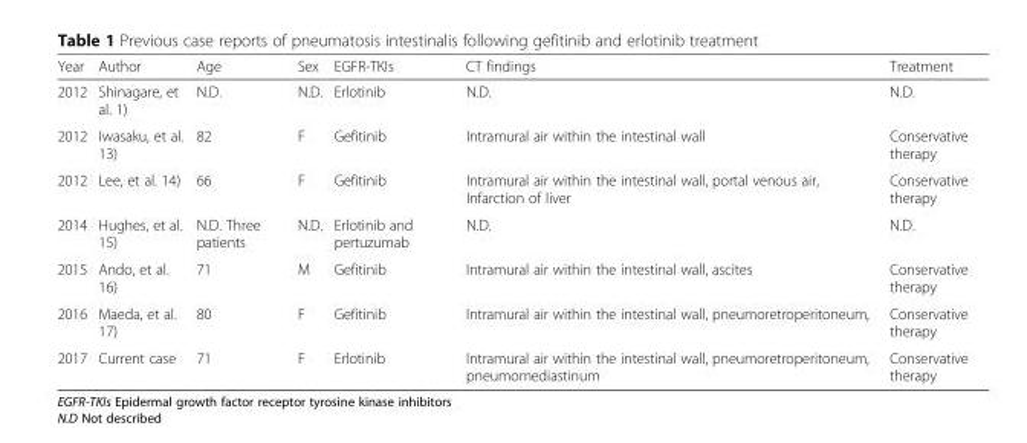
<table><thead><tr><td>Year</td><td>Author</td><td>Age</td><td>Sex</td><td>EGFR-TKIs</td><td>CT findings</td><td>Treatment</td></tr></thead><tbody><tr><td>2012</td><td>Shinagare, et al. 1)</td><td>N.D.</td><td>N.D.</td><td>Erlotinib</td><td>N.D.</td><td>N.D.</td></tr><tr><td>2012</td><td>Iwasaku, et al. 13)</td><td>82</td><td>F</td><td>Gefitinib</td><td>Intramural air within the intestinal wall</td><td>Conservative therapy</td></tr><tr><td>2012</td><td>Lee, et al. 14)</td><td>66</td><td>F</td><td>Gefitinib</td><td>Intramural air within the intestinal wall, portal venous air, Infarction of liver</td><td>Conservative therapy</td></tr><tr><td>2014</td><td>Hughes, et al. 15)</td><td>N.D. Three patients</td><td>N.D.</td><td>Erlotinib and pertuzumab</td><td>N.D.</td><td>N.D.</td></tr><tr><td>2015</td><td>Ando, et al. 16)</td><td>71</td><td>M</td><td>Gefitinib</td><td>Intramural air within the intestinal wall, ascites</td><td>Conservative therapy</td></tr><tr><td>2016</td><td>Maeda, et al. 17)</td><td>80</td><td>F</td><td>Gefitinib</td><td>Intramural air within the intestinal wall, pneumoretroperitoneum,</td><td>Conservative therapy</td></tr><tr><td>2017</td><td>Current case</td><td>71</td><td>F</td><td>Erlotinib</td><td>Intramural air within the intestinal wall, pneumoretroperitoneum, pneumomediastinum</td><td>Conservative therapy</td></tr></tbody></table>